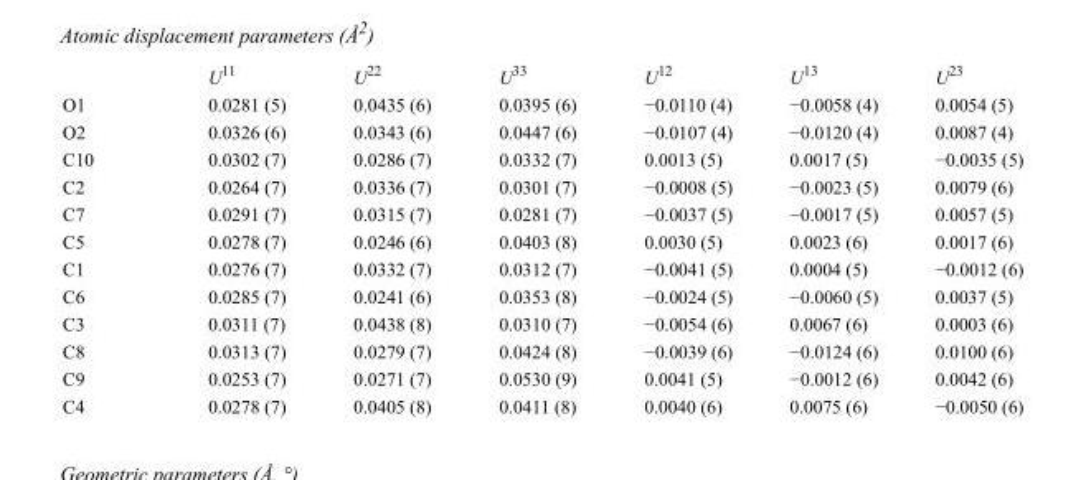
<table><thead><tr><td></td><td>U<sup>11</sup></td><td>U<sup>22</sup></td><td>U<sup>33</sup></td><td>U<sup>12</sup></td><td>U<sup>13</sup></td><td>U<sup>23</sup></td></tr></thead><tbody><tr><td>O1</td><td>0.0281 (5)</td><td>0.0435 (6)</td><td>0.0395 (6)</td><td>−0.0110 (4)</td><td>−0.0058 (4)</td><td>0.0054 (5)</td></tr><tr><td>O2</td><td>0.0326 (6)</td><td>0.0343 (6)</td><td>0.0447 (6)</td><td>−0.0107 (4)</td><td>−0.0120 (4)</td><td>0.0087 (4)</td></tr><tr><td>C10</td><td>0.0302 (7)</td><td>0.0286 (7)</td><td>0.0332 (7)</td><td>0.0013 (5)</td><td>0.0017 (5)</td><td>−0.0035 (5)</td></tr><tr><td>C2</td><td>0.0264 (7)</td><td>0.0336 (7)</td><td>0.0301 (7)</td><td>−0.0008 (5)</td><td>−0.0023 (5)</td><td>0.0079 (6)</td></tr><tr><td>C7</td><td>0.0291 (7)</td><td>0.0315 (7)</td><td>0.0281 (7)</td><td>−0.0037 (5)</td><td>−0.0017 (5)</td><td>0.0057 (5)</td></tr><tr><td>C5</td><td>0.0278 (7)</td><td>0.0246 (6)</td><td>0.0403 (8)</td><td>0.0030 (5)</td><td>0.0023 (6)</td><td>0.0017 (6)</td></tr><tr><td>C1</td><td>0.0276 (7)</td><td>0.0332 (7)</td><td>0.0312 (7)</td><td>−0.0041 (5)</td><td>0.0004 (5)</td><td>−0.0012 (6)</td></tr><tr><td>C6</td><td>0.0285 (7)</td><td>0.0241 (6)</td><td>0.0353 (8)</td><td>−0.0024 (5)</td><td>−0.0060 (5)</td><td>0.0037 (5)</td></tr><tr><td>C3</td><td>0.0311 (7)</td><td>0.0438 (8)</td><td>0.0310 (7)</td><td>−0.0054 (6)</td><td>0.0067 (6)</td><td>0.0003 (6)</td></tr><tr><td>C8</td><td>0.0313 (7)</td><td>0.0279 (7)</td><td>0.0424 (8)</td><td>−0.0039 (6)</td><td>−0.0124 (6)</td><td>0.0100 (6)</td></tr><tr><td>C9</td><td>0.0253 (7)</td><td>0.0271 (7)</td><td>0.0530 (9)</td><td>0.0041 (5)</td><td>−0.0012 (6)</td><td>0.0042 (6)</td></tr><tr><td>C4</td><td>0.0278 (7)</td><td>0.0405 (8)</td><td>0.0411 (8)</td><td>0.0040 (6)</td><td>0.0075 (6)</td><td>−0.0050 (6)</td></tr></tbody></table>